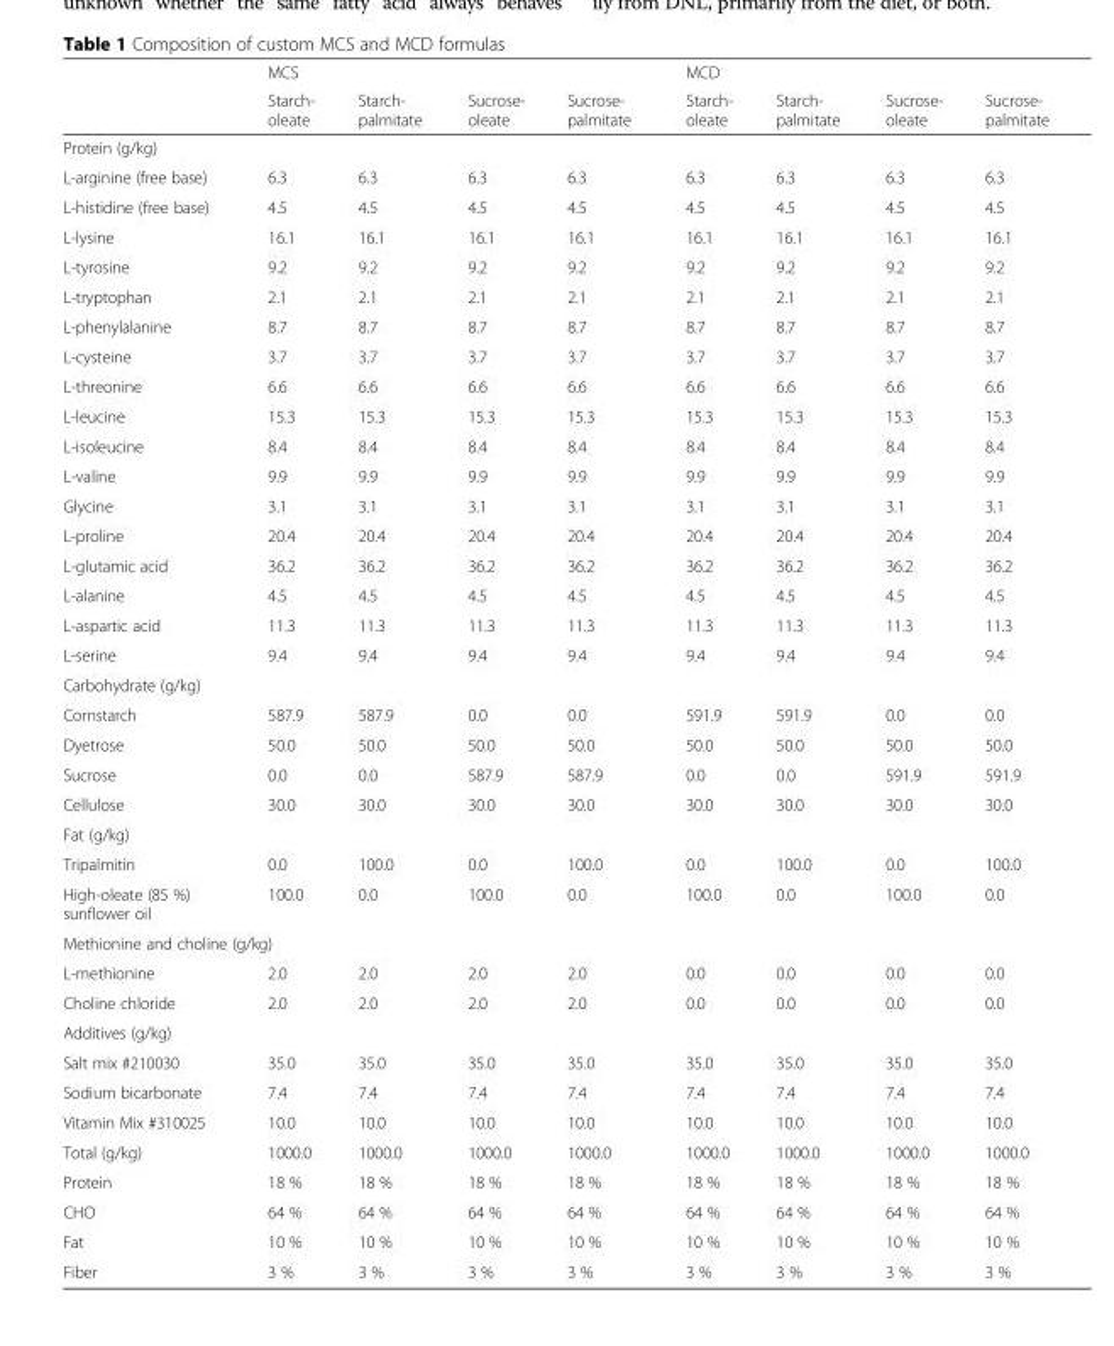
<table><thead><tr><td rowspan="2"></td><td colspan="4">MCS</td><td colspan="4">MCD</td></tr><tr><td>Starch- oleate</td><td>Starch- palmitate</td><td>Sucrose- oleate</td><td>Sucrose- palmitate</td><td>Starch- oleate</td><td>Starch- palmitate</td><td>Sucrose- oleate</td><td>Sucrose- palmitate</td></tr></thead><tbody><tr><td colspan="9">Protein (g/kg)</td></tr><tr><td>L-arginine (free base)</td><td>6.3</td><td>6.3</td><td>6.3</td><td>6.3</td><td>6.3</td><td>6.3</td><td>6.3</td><td>6.3</td></tr><tr><td>L-histidine (free base)</td><td>4.5</td><td>4.5</td><td>4.5</td><td>4.5</td><td>4.5</td><td>4.5</td><td>4.5</td><td>4.5</td></tr><tr><td>L-lysine</td><td>16.1</td><td>16.1</td><td>16.1</td><td>16.1</td><td>16.1</td><td>16.1</td><td>16.1</td><td>16.1</td></tr><tr><td>L-tyrosine</td><td>9.2</td><td>9.2</td><td>9.2</td><td>9.2</td><td>9.2</td><td>9.2</td><td>9.2</td><td>9.2</td></tr><tr><td>L-tryptophan</td><td>2.1</td><td>2.1</td><td>2.1</td><td>2.1</td><td>2.1</td><td>2.1</td><td>2.1</td><td>2.1</td></tr><tr><td>L-phenylalanine</td><td>8.7</td><td>8.7</td><td>8.7</td><td>8.7</td><td>8.7</td><td>8.7</td><td>8.7</td><td>8.7</td></tr><tr><td>L-cysteine</td><td>3.7</td><td>3.7</td><td>3.7</td><td>3.7</td><td>3.7</td><td>3.7</td><td>3.7</td><td>3.7</td></tr><tr><td>L-threonine</td><td>6.6</td><td>6.6</td><td>6.6</td><td>6.6</td><td>6.6</td><td>6.6</td><td>6.6</td><td>6.6</td></tr><tr><td>L-leucine</td><td>15.3</td><td>15.3</td><td>15.3</td><td>15.3</td><td>15.3</td><td>15.3</td><td>15.3</td><td>15.3</td></tr><tr><td>L-isoleucine</td><td>8.4</td><td>8.4</td><td>8.4</td><td>8.4</td><td>8.4</td><td>8.4</td><td>8.4</td><td>8.4</td></tr><tr><td>L-valine</td><td>9.9</td><td>9.9</td><td>9.9</td><td>9.9</td><td>9.9</td><td>9.9</td><td>9.9</td><td>9.9</td></tr><tr><td>Glycine</td><td>3.1</td><td>3.1</td><td>3.1</td><td>3.1</td><td>3.1</td><td>3.1</td><td>3.1</td><td>3.1</td></tr><tr><td>L-proline</td><td>20.4</td><td>20.4</td><td>20.4</td><td>20.4</td><td>20.4</td><td>20.4</td><td>20.4</td><td>20.4</td></tr><tr><td>L-glutamic acid</td><td>36.2</td><td>36.2</td><td>36.2</td><td>36.2</td><td>36.2</td><td>36.2</td><td>36.2</td><td>36.2</td></tr><tr><td>L-alanine</td><td>4.5</td><td>4.5</td><td>4.5</td><td>4.5</td><td>4.5</td><td>4.5</td><td>4.5</td><td>4.5</td></tr><tr><td>L-aspartic acid</td><td>11.3</td><td>11.3</td><td>11.3</td><td>11.3</td><td>11.3</td><td>11.3</td><td>11.3</td><td>11.3</td></tr><tr><td>L-serine</td><td>9.4</td><td>9.4</td><td>9.4</td><td>9.4</td><td>9.4</td><td>9.4</td><td>9.4</td><td>9.4</td></tr><tr><td colspan="9">Carbohydrate (g/kg)</td></tr><tr><td>Cornstarch</td><td>587.9</td><td>587.9</td><td>0.0</td><td>0.0</td><td>591.9</td><td>591.9</td><td>0.0</td><td>0.0</td></tr><tr><td>Dyetrose</td><td>50.0</td><td>50.0</td><td>50.0</td><td>50.0</td><td>50.0</td><td>50.0</td><td>50.0</td><td>50.0</td></tr><tr><td>Sucrose</td><td>0.0</td><td>0.0</td><td>587.9</td><td>587.9</td><td>0.0</td><td>0.0</td><td>591.9</td><td>591.9</td></tr><tr><td>Cellulose</td><td>30.0</td><td>30.0</td><td>30.0</td><td>30.0</td><td>30.0</td><td>30.0</td><td>30.0</td><td>30.0</td></tr><tr><td colspan="9">Fat (g/kg)</td></tr><tr><td>Tripalmitin</td><td>0.0</td><td>100.0</td><td>0.0</td><td>100.0</td><td>0.0</td><td>100.0</td><td>0.0</td><td>100.0</td></tr><tr><td>High-oleate (85 %) sunflower oil</td><td>100.0</td><td>0.0</td><td>100.0</td><td>0.0</td><td>100.0</td><td>0.0</td><td>100.0</td><td>0.0</td></tr><tr><td colspan="9">Methionine and choline (g/kg)</td></tr><tr><td>L-methionine</td><td>2.0</td><td>2.0</td><td>2.0</td><td>2.0</td><td>0.0</td><td>0.0</td><td>0.0</td><td>0.0</td></tr><tr><td>Choline chloride</td><td>2.0</td><td>2.0</td><td>2.0</td><td>2.0</td><td>0.0</td><td>0.0</td><td>0.0</td><td>0.0</td></tr><tr><td colspan="9">Additives (g/kg)</td></tr><tr><td>Salt mix #210030</td><td>35.0</td><td>35.0</td><td>35.0</td><td>35.0</td><td>35.0</td><td>35.0</td><td>35.0</td><td>35.0</td></tr><tr><td>Sodium bicarbonate</td><td>7.4</td><td>7.4</td><td>7.4</td><td>7.4</td><td>7.4</td><td>7.4</td><td>7.4</td><td>7.4</td></tr><tr><td>Vitamin Mix #310025</td><td>10.0</td><td>10.0</td><td>10.0</td><td>10.0</td><td>10.0</td><td>10.0</td><td>10.0</td><td>10.0</td></tr><tr><td>Total (g/kg)</td><td>1000.0</td><td>1000.0</td><td>1000.0</td><td>1000.0</td><td>1000.0</td><td>1000.0</td><td>1000.0</td><td>1000.0</td></tr><tr><td>Protein</td><td>18 %</td><td>18 %</td><td>18 %</td><td>18 %</td><td>18 %</td><td>18 %</td><td>18 %</td><td>18 %</td></tr><tr><td>CHO</td><td>64 %</td><td>64 %</td><td>64 %</td><td>64 %</td><td>64 %</td><td>64 %</td><td>64 %</td><td>64 %</td></tr><tr><td>Fat</td><td>10 %</td><td>10 %</td><td>10 %</td><td>10 %</td><td>10 %</td><td>10 %</td><td>10 %</td><td>10 %</td></tr><tr><td>Fiber</td><td>3 %</td><td>3 %</td><td>3 %</td><td>3 %</td><td>3 %</td><td>3 %</td><td>3 %</td><td>3 %</td></tr></tbody></table>